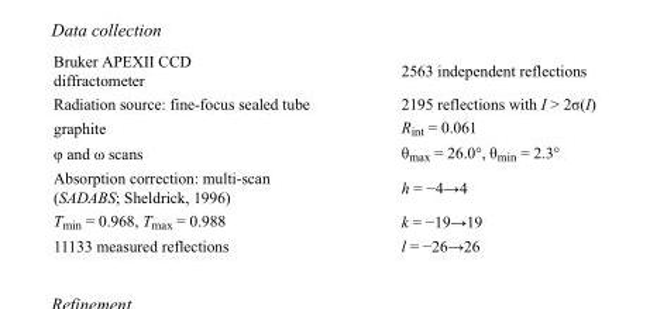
<table><tbody><tr><td>Bruker APEXII CCD diffractometer</td><td>2563 independent reflections</td></tr><tr><td>Radiation source: fine-focus sealed tube</td><td>2195 reflections with I &gt; 2σ(I)</td></tr><tr><td>graphite</td><td>R<sub>int</sub> = 0.061</td></tr><tr><td>φ and ω scans</td><td>θ<sub>max</sub> = 26.0°, θ<sub>min</sub> = 2.3°</td></tr><tr><td>Absorption correction: multi-scan (SADABS; Sheldrick, 1996)</td><td>h = −4→4</td></tr><tr><td>T<sub>min</sub> = 0.968, T<sub>max</sub> = 0.988</td><td>k = −19→19</td></tr><tr><td>11133 measured reflections</td><td>l = −26→26</td></tr></tbody></table>